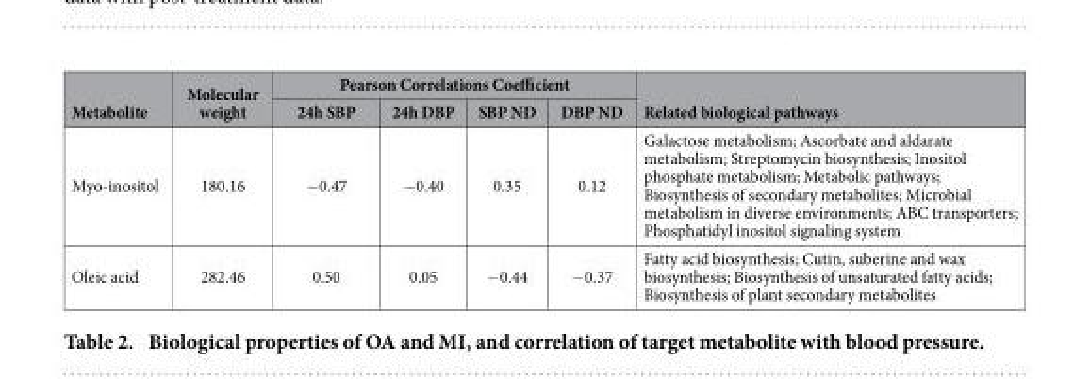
<table><thead><tr><td rowspan="2">Metabolite</td><td rowspan="2">Molecular weight</td><td colspan="4">Pearson Correlations Coefficient</td><td rowspan="2">Related biological pathways</td></tr><tr><td>24h SBP</td><td>24h DBP</td><td>SBP ND</td><td>DBP ND</td></tr></thead><tbody><tr><td>Myo-inositol</td><td>180.16</td><td>− 0.47</td><td>− 0.40</td><td>0.35</td><td>0.12</td><td>Galactose metabolism; Ascorbate and aldarate metabolism; Streptomycin biosynthesis; Inositol phosphate metabolism; Metabolic pathways; Biosynthesis of secondary metabolites; Microbial metabolism in diverse environments; ABC transporters; Phosphatidyl inositol signaling system</td></tr><tr><td>Oleic acid</td><td>282.46</td><td>0.50</td><td>0.05</td><td>− 0.44</td><td>− 0.37</td><td>Fatty acid biosynthesis; Cutin, suberine and wax biosynthesis; Biosynthesis of unsaturated fatty acids; Biosynthesis of plant secondary metabolites</td></tr></tbody></table>